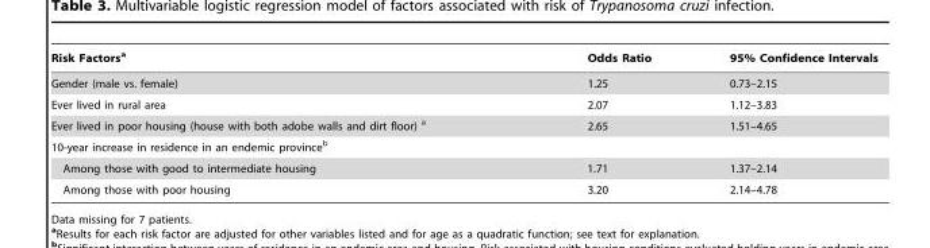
<table><thead><tr><td>Risk Factors<sup>a</sup></td><td>Odds Ratio</td><td>95% Confidence Intervals</td></tr></thead><tbody><tr><td>Gender (male vs. female)</td><td>1.25</td><td>0.73–2.15</td></tr><tr><td>Ever lived in rural area</td><td>2.07</td><td>1.12–3.83</td></tr><tr><td>Ever lived in poor housing (house with both adobe walls and dirt floor) a</td><td>2.65</td><td>1.51–4.65</td></tr><tr><td colspan="3">10-year increase in residence in an endemic province<sup>b</sup></td></tr><tr><td>Among those with good to intermediate housing</td><td>1.71</td><td>1.37–2.14</td></tr><tr><td>Among those with poor housing</td><td>3.20</td><td>2.14–4.78</td></tr></tbody></table>